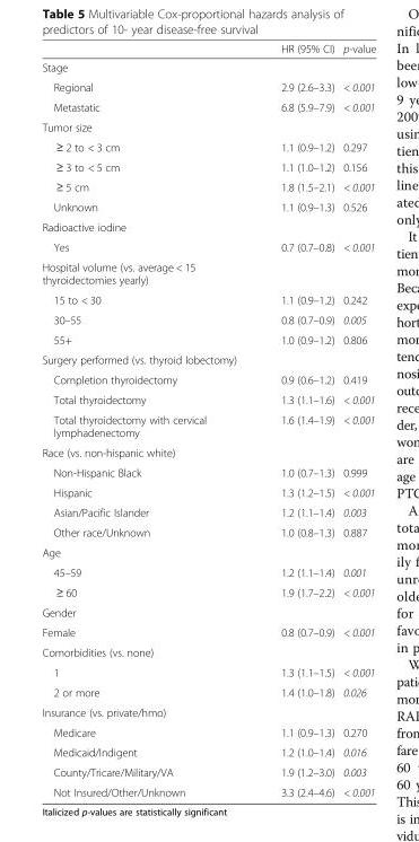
<table><thead><tr><td></td><td>HR (95% CI)</td><td>p-value</td></tr></thead><tbody><tr><td colspan="3">Stage</td></tr><tr><td>Regional</td><td>2.9 (2.6–3.3)</td><td>&lt; 0.001</td></tr><tr><td>Metastatic</td><td>6.8 (5.9–7.9)</td><td>&lt; 0.001</td></tr><tr><td colspan="3">Tumor size</td></tr><tr><td>≥ 2 to &lt; 3 cm</td><td>1.1 (0.9–1.2)</td><td>0.297</td></tr><tr><td>≥ 3 to &lt; 5 cm</td><td>1.1 (1.0–1.2)</td><td>0.156</td></tr><tr><td>≥ 5 cm</td><td>1.8 (1.5–2.1)</td><td>&lt; 0.001</td></tr><tr><td>Unknown</td><td>1.1 (0.9–1.3)</td><td>0.526</td></tr><tr><td colspan="3">Radioactive iodine</td></tr><tr><td>Yes</td><td>0.7 (0.7–0.8)</td><td>&lt; 0.001</td></tr><tr><td colspan="3">Hospital volume (vs. average &lt; 15 thyroidectomies yearly)</td></tr><tr><td>15 to &lt; 30</td><td>1.1 (0.9–1.2)</td><td>0.242</td></tr><tr><td>30–55</td><td>0.8 (0.7–0.9)</td><td>0.005</td></tr><tr><td>55+</td><td>1.0 (0.9–1.2)</td><td>0.806</td></tr><tr><td colspan="3">Surgery performed (vs. thyroid lobectomy)</td></tr><tr><td>Completion thyroidectomy</td><td>0.9 (0.6–1.2)</td><td>0.419</td></tr><tr><td>Total thyroidectomy</td><td>1.3 (1.1–1.6)</td><td>&lt; 0.001</td></tr><tr><td>Total thyroidectomy with cervical lymphadenectomy</td><td>1.6 (1.4–1.9)</td><td>&lt; 0.001</td></tr><tr><td colspan="3">Race (vs. non-hispanic white)</td></tr><tr><td>Non-Hispanic Black</td><td>1.0 (0.7–1.3)</td><td>0.999</td></tr><tr><td>Hispanic</td><td>1.3 (1.2–1.5)</td><td>&lt; 0.001</td></tr><tr><td>Asian/Pacific Islander</td><td>1.2 (1.1–1.4)</td><td>0.003</td></tr><tr><td>Other race/Unknown</td><td>1.0 (0.8–1.3)</td><td>0.887</td></tr><tr><td colspan="3">Age</td></tr><tr><td>45–59</td><td>1.2 (1.1–1.4)</td><td>0.001</td></tr><tr><td>≥ 60</td><td>1.9 (1.7–2.2)</td><td>&lt; 0.001</td></tr><tr><td colspan="3">Gender</td></tr><tr><td>Female</td><td>0.8 (0.7–0.9)</td><td>&lt; 0.001</td></tr><tr><td colspan="3">Comorbidities (vs. none)</td></tr><tr><td>1</td><td>1.3 (1.1–1.5)</td><td>&lt; 0.001</td></tr><tr><td>2 or more</td><td>1.4 (1.0–1.8)</td><td>0.026</td></tr><tr><td colspan="3">Insurance (vs. private/hmo)</td></tr><tr><td>Medicare</td><td>1.1 (0.9–1.3)</td><td>0.270</td></tr><tr><td>Medicaid/Indigent</td><td>1.2 (1.0–1.4)</td><td>0.016</td></tr><tr><td>County/Tricare/Military/VA</td><td>1.9 (1.2–3.0)</td><td>0.003</td></tr><tr><td>Not Insured/Other/Unknown</td><td>3.3 (2.4–4.6)</td><td>&lt; 0.001</td></tr></tbody></table>